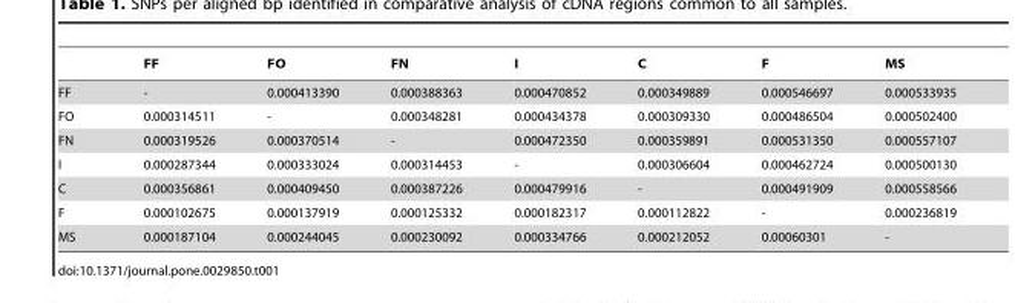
<table><thead><tr><td></td><td>FF</td><td>FO</td><td>FN</td><td>I</td><td>C</td><td>F</td><td>MS</td></tr></thead><tbody><tr><td>FF</td><td>-</td><td>0.000413390</td><td>0.000388363</td><td>0.000470852</td><td>0.000349889</td><td>0.000546697</td><td>0.000533935</td></tr><tr><td>FO</td><td>0.000314511</td><td>-</td><td>0.000348281</td><td>0.000434378</td><td>0.000309330</td><td>0.000486504</td><td>0.000502400</td></tr><tr><td>FN</td><td>0.000319526</td><td>0.000370514</td><td>-</td><td>0.000472350</td><td>0.000359891</td><td>0.000531350</td><td>0.000557107</td></tr><tr><td>I</td><td>0.000287344</td><td>0.000333024</td><td>0.000314453</td><td>-</td><td>0.000306604</td><td>0.000462724</td><td>0.000500130</td></tr><tr><td>C</td><td>0.000356861</td><td>0.000409450</td><td>0.000387226</td><td>0.000479916</td><td>-</td><td>0.000491909</td><td>0.000558566</td></tr><tr><td>F</td><td>0.000102675</td><td>0.000137919</td><td>0.000125332</td><td>0.000182317</td><td>0.000112822</td><td>-</td><td>0.000236819</td></tr><tr><td>MS</td><td>0.000187104</td><td>0.000244045</td><td>0.000230092</td><td>0.000334766</td><td>0.000212052</td><td>0.00060301</td><td>-</td></tr></tbody></table>